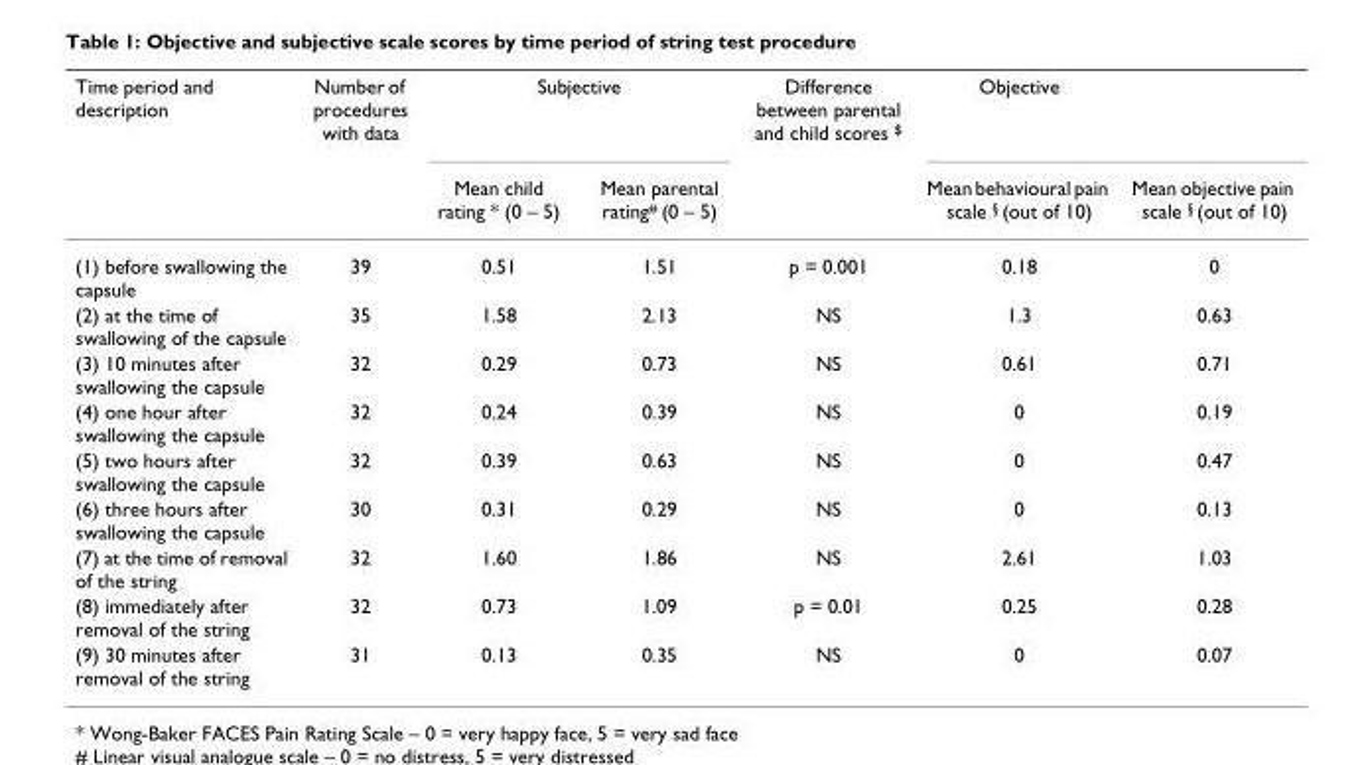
<table><thead><tr><td rowspan="2">Time period and description</td><td rowspan="2">Number of procedures with data</td><td colspan="2">Subjective</td><td rowspan="2">Difference between parental and child scores <sup>$</sup></td><td rowspan="2">Objective Mean behavioural pain scale <sup>§</sup> (out of 10)</td><td rowspan="2">Mean objective pain scale <sup>§</sup> (out of 10)</td></tr><tr><td>Mean child rating * (0 – 5)</td><td>Mean parental rating<sup>#</sup> (0 – 5)</td></tr></thead><tbody><tr><td>(1) before swallowing the capsule</td><td>39</td><td>0.51</td><td>1.51</td><td>p = 0.001</td><td>0.18</td><td>0</td></tr><tr><td>(2) at the time of swallowing of the capsule</td><td>35</td><td>1.58</td><td>2.13</td><td>NS</td><td>1.3</td><td>0.63</td></tr><tr><td>(3) 10 minutes after swallowing the capsule</td><td>32</td><td>0.29</td><td>0.73</td><td>NS</td><td>0.61</td><td>0.71</td></tr><tr><td>(4) one hour after swallowing the capsule</td><td>32</td><td>0.24</td><td>0.39</td><td>NS</td><td>0</td><td>0.19</td></tr><tr><td>(5) two hours after swallowing the capsule</td><td>32</td><td>0.39</td><td>0.63</td><td>NS</td><td>0</td><td>0.47</td></tr><tr><td>(6) three hours after swallowing the capsule</td><td>30</td><td>0.31</td><td>0.29</td><td>NS</td><td>0</td><td>0.13</td></tr><tr><td>(7) at the time of removal of the string</td><td>32</td><td>1.60</td><td>1.86</td><td>NS</td><td>2.61</td><td>1.03</td></tr><tr><td>(8) immediately after removal of the string</td><td>32</td><td>0.73</td><td>1.09</td><td>p = 0.01</td><td>0.25</td><td>0.28</td></tr><tr><td>(9) 30 minutes after removal of the string</td><td>31</td><td>0.13</td><td>0.35</td><td>NS</td><td>0</td><td>0.07</td></tr></tbody></table>